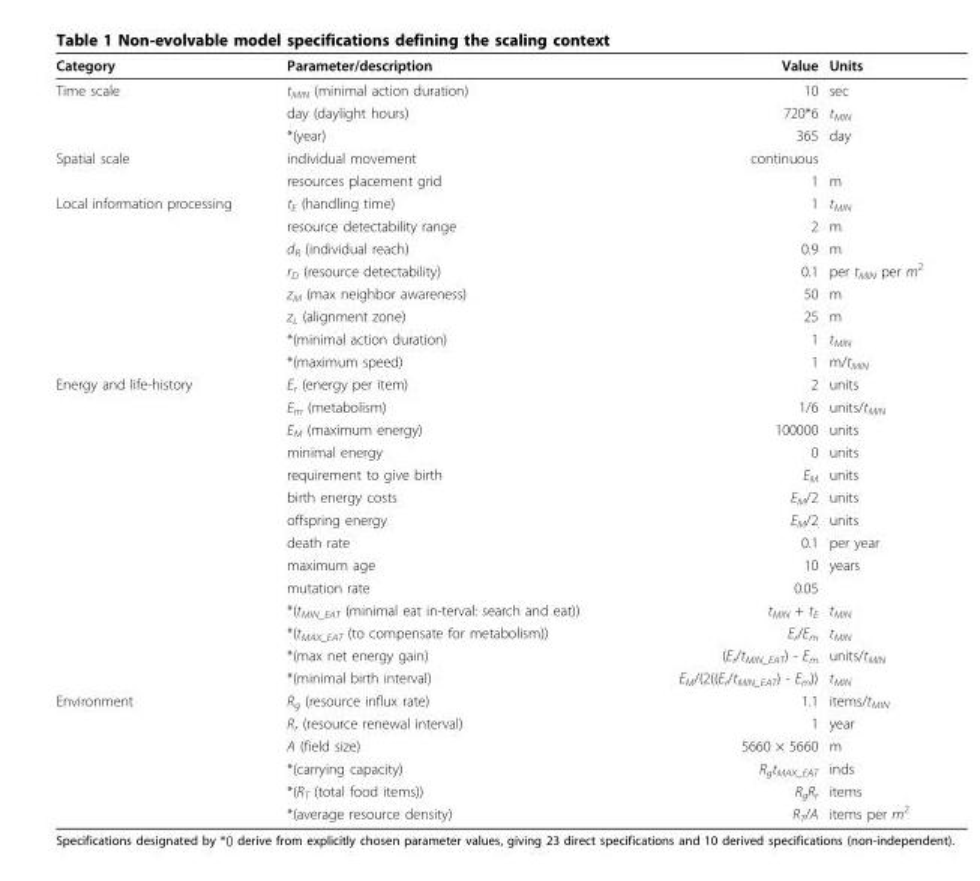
<table><thead><tr><td>Category</td><td>Parameter/description</td><td>Value</td><td>Units</td></tr></thead><tbody><tr><td rowspan="3">Time scale</td><td>t<sub>MIN</sub> (minimal action duration)</td><td>10</td><td>sec</td></tr><tr><td>day (daylight hours)</td><td>720*6</td><td>t<sub>MIN</sub></td></tr><tr><td>*(year)</td><td>365</td><td>day</td></tr><tr><td rowspan="2">Spatial scale</td><td>individual movement</td><td>continuous</td><td></td></tr><tr><td>resources placement grid</td><td>1</td><td>m</td></tr><tr><td rowspan="8">Local information processing</td><td>t<sub>E</sub> (handling time)</td><td>1</td><td>t<sub>MIN</sub></td></tr><tr><td>resource detectability range</td><td>2</td><td>m</td></tr><tr><td>d<sub>R</sub> (individual reach)</td><td>0.9</td><td>m</td></tr><tr><td>r<sub>D</sub> (resource detectability)</td><td>0.1</td><td>per t<sub>MIN</sub> per m<sup>2</sup></td></tr><tr><td>z<sub>M</sub> (max neighbor awareness)</td><td>50</td><td>m</td></tr><tr><td>z<sub>L</sub> (alignment zone)</td><td>25</td><td>m</td></tr><tr><td>*(minimal action duration)</td><td>1</td><td>t<sub>MIN</sub></td></tr><tr><td>*(maximum speed)</td><td>1</td><td>m/t<sub>MIN</sub></td></tr><tr><td rowspan="14">Energy and life-history</td><td>E<sub>r</sub> (energy per item)</td><td>2</td><td>units</td></tr><tr><td>E<sub>m</sub> (metabolism)</td><td>1/6</td><td>units/t<sub>MIN</sub></td></tr><tr><td>E<sub>M</sub> (maximum energy)</td><td>100000</td><td>units</td></tr><tr><td>minimal energy</td><td>0</td><td>units</td></tr><tr><td>requirement to give birth</td><td>E<sub>M</sub></td><td>units</td></tr><tr><td>birth energy costs</td><td>E<sub>M</sub>/2</td><td>units</td></tr><tr><td>offspring energy</td><td>E<sub>M</sub>/2</td><td>units</td></tr><tr><td>death rate</td><td>0.1</td><td>per year</td></tr><tr><td>maximum age</td><td>10</td><td>years</td></tr><tr><td>mutation rate</td><td>0.05</td><td></td></tr><tr><td>*(t<sub>MIN_EAT</sub> (minimal eat in-terval: search and eat))</td><td>t<sub>MIN</sub> + t<sub>E</sub></td><td>t<sub>MIN</sub></td></tr><tr><td>*(t<sub>MAX_EAT</sub> (to compensate for metabolism))</td><td>E<sub>r</sub>/E<sub>m</sub></td><td>t<sub>MIN</sub></td></tr><tr><td>*(max net energy gain)</td><td>(E<sub>r</sub>/t<sub>MIN_EAT</sub>) - E<sub>m</sub></td><td>units/t<sub>MIN</sub></td></tr><tr><td>*(minimal birth interval)</td><td>E<sub>M</sub>/(2((E<sub>r</sub>/t<sub>MIN_EAT</sub>) - E<sub>m</sub>))</td><td>t<sub>MIN</sub></td></tr><tr><td rowspan="6">Environment</td><td>R<sub>g</sub> (resource influx rate)</td><td>1.1</td><td>items/t<sub>MIN</sub></td></tr><tr><td>R<sub>r</sub> (resource renewal interval)</td><td>1</td><td>year</td></tr><tr><td>A (field size)</td><td>5660 × 5660</td><td>m</td></tr><tr><td>*(carrying capacity)</td><td>R<sub>g</sub>t<sub>MAX_EAT</sub></td><td>inds</td></tr><tr><td>*(R<sub>T</sub> (total food items))</td><td>R<sub>g</sub>R<sub>r</sub></td><td>items</td></tr><tr><td>*(average resource density)</td><td>R<sub>T</sub>/A</td><td>items per m<sup>2</sup></td></tr></tbody></table>